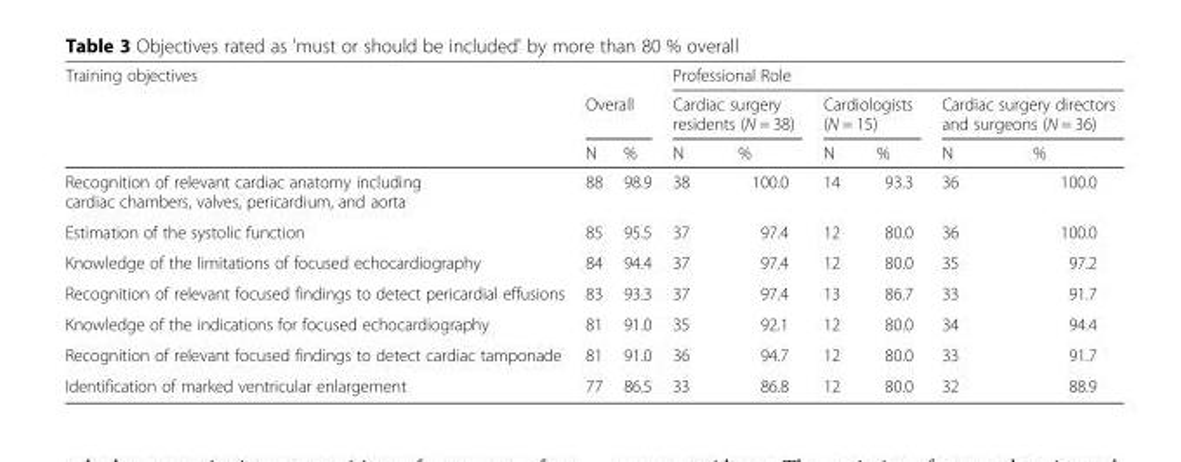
<table><thead><tr><td rowspan="3">Training objectives</td><td></td><td></td><td colspan="6">Professional Role</td></tr><tr><td colspan="2">Overall</td><td colspan="2">Cardiac surgery residents (N = 38)</td><td colspan="2">Cardiologists (N = 15)</td><td colspan="2">Cardiac surgery directors and surgeons (N = 36)</td></tr><tr><td>N</td><td>%</td><td>N</td><td>%</td><td>N</td><td>%</td><td>N</td><td>%</td></tr></thead><tbody><tr><td>Recognition of relevant cardiac anatomy including cardiac chambers, valves, pericardium, and aorta</td><td>88</td><td>98.9</td><td>38</td><td>100.0</td><td>14</td><td>93.3</td><td>36</td><td>100.0</td></tr><tr><td>Estimation of the systolic function</td><td>85</td><td>95.5</td><td>37</td><td>97.4</td><td>12</td><td>80.0</td><td>36</td><td>100.0</td></tr><tr><td>Knowledge of the limitations of focused echocardiography</td><td>84</td><td>94.4</td><td>37</td><td>97.4</td><td>12</td><td>80.0</td><td>35</td><td>97.2</td></tr><tr><td>Recognition of relevant focused findings to detect pericardial effusions</td><td>83</td><td>93.3</td><td>37</td><td>97.4</td><td>13</td><td>86.7</td><td>33</td><td>91.7</td></tr><tr><td>Knowledge of the indications for focused echocardiography</td><td>81</td><td>91.0</td><td>35</td><td>92.1</td><td>12</td><td>80.0</td><td>34</td><td>94.4</td></tr><tr><td>Recognition of relevant focused findings to detect cardiac tamponade</td><td>81</td><td>91.0</td><td>36</td><td>94.7</td><td>12</td><td>80.0</td><td>33</td><td>91.7</td></tr><tr><td>Identification of marked ventricular enlargement</td><td>77</td><td>86.5</td><td>33</td><td>86.8</td><td>12</td><td>80.0</td><td>32</td><td>88.9</td></tr></tbody></table>